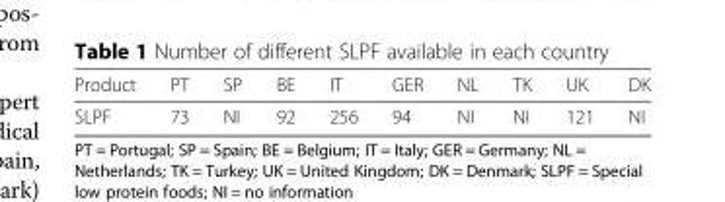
<table><thead><tr><td>Product</td><td>PT</td><td>SP</td><td>BE</td><td>IT</td><td>GER</td><td>NL</td><td>TK</td><td>UK</td><td>DK</td></tr></thead><tbody><tr><td>SLPF</td><td>73</td><td>NI</td><td>92</td><td>256</td><td>94</td><td>NI</td><td>NI</td><td>121</td><td>NI</td></tr></tbody></table>